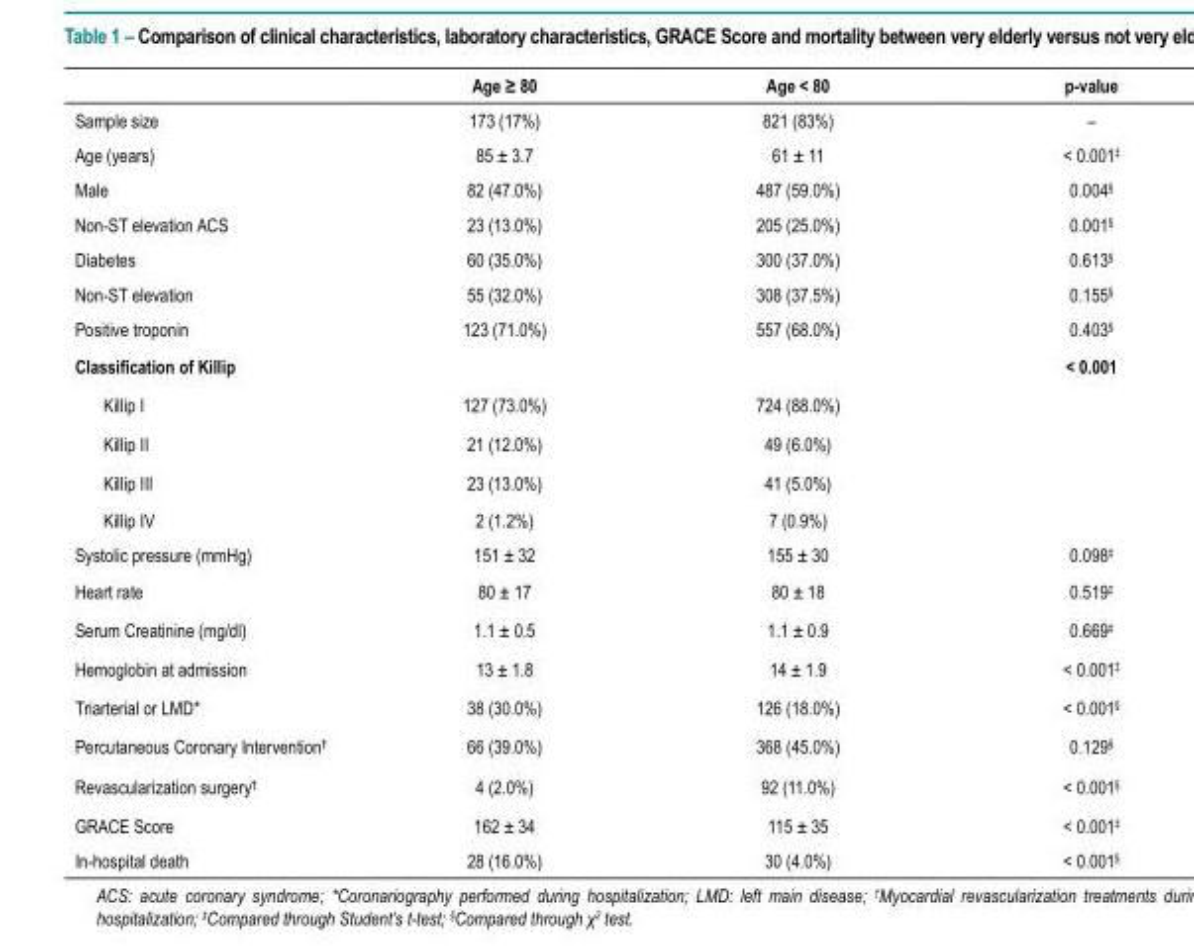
<table><thead><tr><td></td><td>Age ≥ 80</td><td>Age &lt; 80</td><td>p-value</td></tr></thead><tbody><tr><td>Sample size</td><td>173 (17%)</td><td>821 (83%)</td><td>–</td></tr><tr><td>Age (years)</td><td>85 ± 3.7</td><td>61 ± 11</td><td>&lt; 0.001<sup>‡</sup></td></tr><tr><td>Male</td><td>82 (47.0%)</td><td>487 (59.0%)</td><td>0.004<sup>§</sup></td></tr><tr><td>Non-ST elevation ACS</td><td>23 (13.0%)</td><td>205 (25.0%)</td><td>0.001<sup>§</sup></td></tr><tr><td>Diabetes</td><td>60 (35.0%)</td><td>300 (37.0%)</td><td>0.613<sup>§</sup></td></tr><tr><td>Non-ST elevation</td><td>55 (32.0%)</td><td>308 (37.5%)</td><td>0.155<sup>§</sup></td></tr><tr><td>Positive troponin</td><td>123 (71.0%)</td><td>557 (68.0%)</td><td>0.403<sup>§</sup></td></tr><tr><td>Classification of Killip</td><td></td><td></td><td>&lt; 0.001</td></tr><tr><td>Killip I</td><td>127 (73.0%)</td><td>724 (88.0%)</td><td></td></tr><tr><td>Killip II</td><td>21 (12.0%)</td><td>49 (6.0%)</td><td></td></tr><tr><td>Killip III</td><td>23 (13.0%)</td><td>41 (5.0%)</td><td></td></tr><tr><td>Killip IV</td><td>2 (1.2%)</td><td>7 (0.9%)</td><td></td></tr><tr><td>Systolic pressure (mmHg)</td><td>151 ± 32</td><td>155 ± 30</td><td>0.098<sup>‡</sup></td></tr><tr><td>Heart rate</td><td>80 ± 17</td><td>80 ± 18</td><td>0.519<sup>‡</sup></td></tr><tr><td>Serum Creatinine (mg/dl)</td><td>1.1 ± 0.5</td><td>1.1 ± 0.9</td><td>0.669<sup>‡</sup></td></tr><tr><td>Hemoglobin at admission</td><td>13 ± 1.8</td><td>14 ± 1.9</td><td>&lt; 0.001<sup>‡</sup></td></tr><tr><td>Triarterial or LMD*</td><td>38 (30.0%)</td><td>126 (18.0%)</td><td>&lt; 0.001<sup>§</sup></td></tr><tr><td>Percutaneous Coronary Intervention<sup>†</sup></td><td>66 (39.0%)</td><td>368 (45.0%)</td><td>0.129<sup>§</sup></td></tr><tr><td>Revascularization surgery<sup>†</sup></td><td>4 (2.0%)</td><td>92 (11.0%)</td><td>&lt; 0.001<sup>§</sup></td></tr><tr><td>GRACE Score</td><td>162 ± 34</td><td>115 ± 35</td><td>&lt; 0.001<sup>‡</sup></td></tr><tr><td>In-hospital death</td><td>28 (16.0%)</td><td>30 (4.0%)</td><td>&lt; 0.001<sup>§</sup></td></tr></tbody></table>